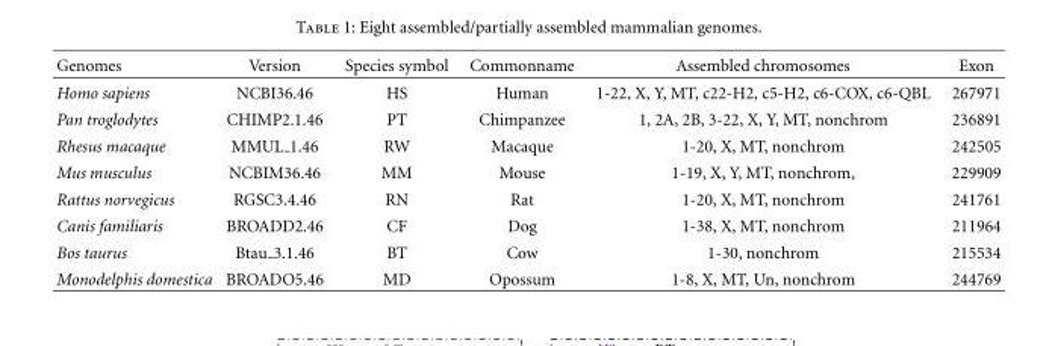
<table><thead><tr><td>Genomes</td><td>Version</td><td>Species symbol</td><td>Commonname</td><td>Assembled chromosomes</td><td>Exon</td></tr></thead><tbody><tr><td>Homo sapiens</td><td>NCBI36.46</td><td>HS</td><td>Human</td><td>1-22, X, Y, MT, c22-H2, c5-H2, c6-COX, c6-QBL</td><td>267971</td></tr><tr><td>Pan troglodytes</td><td>CHIMP2.1.46</td><td>PT</td><td>Chimpanzee</td><td>1, 2A, 2B, 3-22, X, Y, MT, nonchrom</td><td>236891</td></tr><tr><td>Rhesus macaque</td><td>MMUL 1.46</td><td>RW</td><td>Macaque</td><td>1-20, X, MT, nonchrom</td><td>242505</td></tr><tr><td>Mus musculus</td><td>NCBIM36.46</td><td>MM</td><td>Mouse</td><td>1-19, X, Y, MT, nonchrom,</td><td>229909</td></tr><tr><td>Rattus norvegicus</td><td>RGSC3.4.46</td><td>RN</td><td>Rat</td><td>1-20, X, MT, nonchrom</td><td>241761</td></tr><tr><td>Canis familiaris</td><td>BROADD2.46</td><td>CF</td><td>Dog</td><td>1-38, X, MT, nonchrom</td><td>211964</td></tr><tr><td>Bos taurus</td><td>Btau 3.1.46</td><td>BT</td><td>Cow</td><td>1-30, nonchrom</td><td>215534</td></tr><tr><td>Monodelphis domestica</td><td>BROADO5.46</td><td>MD</td><td>Opossum</td><td>1-8, X, MT, Un, nonchrom</td><td>244769</td></tr></tbody></table>